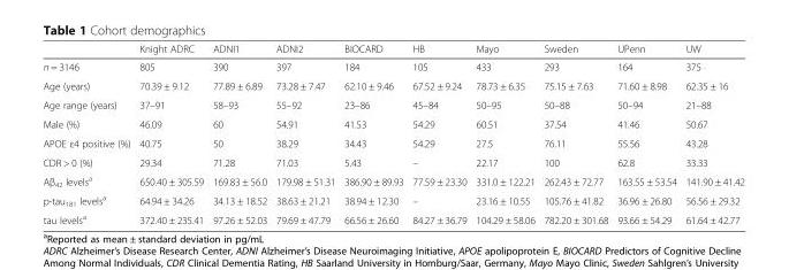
<table><thead><tr><td></td><td>Knight ADRC</td><td>ADNI1</td><td>ADNI2</td><td>BIOCARD</td><td>HB</td><td>Mayo</td><td>Sweden</td><td>UPenn</td><td>UW</td></tr></thead><tbody><tr><td>n = 3146</td><td>805</td><td>390</td><td>397</td><td>184</td><td>105</td><td>433</td><td>293</td><td>164</td><td>375</td></tr><tr><td>Age (years)</td><td>70.39 ± 9.12</td><td>77.89 ± 6.89</td><td>73.28 ± 7.47</td><td>62.10 ± 9.46</td><td>67.52 ± 9.24</td><td>78.73 ± 6.35</td><td>75.15 ± 7.63</td><td>71.60 ± 8.98</td><td>62.35 ± 16</td></tr><tr><td>Age range (years)</td><td>37–91</td><td>58–93</td><td>55–92</td><td>23–86</td><td>45–84</td><td>50–95</td><td>50–88</td><td>50–94</td><td>21–88</td></tr><tr><td>Male (%)</td><td>46.09</td><td>60</td><td>54.91</td><td>41.53</td><td>54.29</td><td>60.51</td><td>37.54</td><td>41.46</td><td>50.67</td></tr><tr><td>APOE ε4 positive (%)</td><td>40.75</td><td>50</td><td>38.29</td><td>34.43</td><td>54.29</td><td>27.5</td><td>76.11</td><td>55.56</td><td>43.28</td></tr><tr><td>CDR &gt; 0 (%)</td><td>29.34</td><td>71.28</td><td>71.03</td><td>5.43</td><td>–</td><td>22.17</td><td>100</td><td>62.8</td><td>33.33</td></tr><tr><td>Aβ<sub>42</sub> levels<sup>a</sup></td><td>650.40 ± 305.59</td><td>169.83 ± 56.0</td><td>179.98 ± 51.31</td><td>386.90 ± 89.93</td><td>77.59 ± 23.30</td><td>331.0 ± 122.21</td><td>262.43 ± 72.77</td><td>163.55 ± 53.54</td><td>141.90 ± 41.42</td></tr><tr><td>p-tau<sub>181</sub> levels<sup>a</sup></td><td>64.94 ± 34.26</td><td>34.13 ± 18.52</td><td>38.63 ± 21.21</td><td>38.94 ± 12.30</td><td>–</td><td>23.16 ± 10.55</td><td>105.76 ± 41.82</td><td>36.96 ± 26.80</td><td>56.56 ± 29.32</td></tr><tr><td>tau levels<sup>a</sup></td><td>372.40 ± 235.41</td><td>97.26 ± 52.03</td><td>79.69 ± 47.79</td><td>66.56 ± 26.60</td><td>84.27 ± 36.79</td><td>104.29 ± 58.06</td><td>782.20 ± 301.68</td><td>93.66 ± 54.29</td><td>61.64 ± 42.77</td></tr></tbody></table>